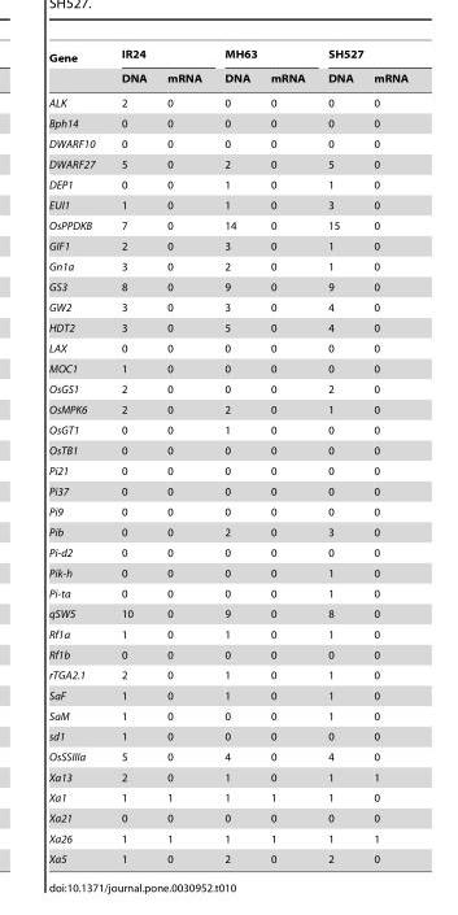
<table><thead><tr><td rowspan="2">Gene</td><td colspan="2">IR24</td><td colspan="2">MH63</td><td colspan="2">SH527</td></tr><tr><td>DNA</td><td>mRNA</td><td>DNA</td><td>mRNA</td><td>DNA</td><td>mRNA</td></tr></thead><tbody><tr><td>ALK</td><td>2</td><td>0</td><td>0</td><td>0</td><td>0</td><td>0</td></tr><tr><td>Bph14</td><td>0</td><td>0</td><td>0</td><td>0</td><td>0</td><td>0</td></tr><tr><td>DWARF10</td><td>0</td><td>0</td><td>0</td><td>0</td><td>0</td><td>0</td></tr><tr><td>DWARF27</td><td>5</td><td>0</td><td>2</td><td>0</td><td>5</td><td>0</td></tr><tr><td>DEP1</td><td>0</td><td>0</td><td>1</td><td>0</td><td>1</td><td>0</td></tr><tr><td>EUI1</td><td>1</td><td>0</td><td>1</td><td>0</td><td>3</td><td>0</td></tr><tr><td>OsPPDKB</td><td>7</td><td>0</td><td>14</td><td>0</td><td>15</td><td>0</td></tr><tr><td>GIF1</td><td>2</td><td>0</td><td>3</td><td>0</td><td>1</td><td>0</td></tr><tr><td>Gn1a</td><td>3</td><td>0</td><td>2</td><td>0</td><td>1</td><td>0</td></tr><tr><td>GS3</td><td>8</td><td>0</td><td>9</td><td>0</td><td>9</td><td>0</td></tr><tr><td>GW2</td><td>3</td><td>0</td><td>3</td><td>0</td><td>4</td><td>0</td></tr><tr><td>HDT2</td><td>3</td><td>0</td><td>5</td><td>0</td><td>4</td><td>0</td></tr><tr><td>LAX</td><td>0</td><td>0</td><td>0</td><td>0</td><td>0</td><td>0</td></tr><tr><td>MOC1</td><td>1</td><td>0</td><td>0</td><td>0</td><td>0</td><td>0</td></tr><tr><td>OsGS1</td><td>2</td><td>0</td><td>0</td><td>0</td><td>2</td><td>0</td></tr><tr><td>OsMPK6</td><td>2</td><td>0</td><td>2</td><td>0</td><td>1</td><td>0</td></tr><tr><td>OsGT1</td><td>0</td><td>0</td><td>1</td><td>0</td><td>0</td><td>0</td></tr><tr><td>OsTB1</td><td>0</td><td>0</td><td>0</td><td>0</td><td>0</td><td>0</td></tr><tr><td>Pi21</td><td>0</td><td>0</td><td>0</td><td>0</td><td>0</td><td>0</td></tr><tr><td>Pi37</td><td>0</td><td>0</td><td>0</td><td>0</td><td>0</td><td>0</td></tr><tr><td>Pi9</td><td>0</td><td>0</td><td>0</td><td>0</td><td>0</td><td>0</td></tr><tr><td>Pib</td><td>0</td><td>0</td><td>2</td><td>0</td><td>3</td><td>0</td></tr><tr><td>Pi-d2</td><td>0</td><td>0</td><td>0</td><td>0</td><td>0</td><td>0</td></tr><tr><td>Pik-h</td><td>0</td><td>0</td><td>0</td><td>0</td><td>1</td><td>0</td></tr><tr><td>Pi-ta</td><td>0</td><td>0</td><td>0</td><td>0</td><td>1</td><td>0</td></tr><tr><td>qSW5</td><td>10</td><td>0</td><td>9</td><td>0</td><td>8</td><td>0</td></tr><tr><td>Rf1a</td><td>1</td><td>0</td><td>1</td><td>0</td><td>1</td><td>0</td></tr><tr><td>Rf1b</td><td>0</td><td>0</td><td>0</td><td>0</td><td>0</td><td>0</td></tr><tr><td>rTGA2.1</td><td>2</td><td>0</td><td>1</td><td>0</td><td>1</td><td>0</td></tr><tr><td>SaF</td><td>1</td><td>0</td><td>1</td><td>0</td><td>1</td><td>0</td></tr><tr><td>SaM</td><td>1</td><td>0</td><td>0</td><td>0</td><td>1</td><td>0</td></tr><tr><td>sd1</td><td>1</td><td>0</td><td>0</td><td>0</td><td>0</td><td>0</td></tr><tr><td>OsSSIIIa</td><td>5</td><td>0</td><td>4</td><td>0</td><td>4</td><td>0</td></tr><tr><td>Xa13</td><td>2</td><td>0</td><td>1</td><td>0</td><td>1</td><td>1</td></tr><tr><td>Xa1</td><td>1</td><td>1</td><td>1</td><td>1</td><td>1</td><td>0</td></tr><tr><td>Xa21</td><td>0</td><td>0</td><td>0</td><td>0</td><td>0</td><td>0</td></tr><tr><td>Xa26</td><td>1</td><td>1</td><td>1</td><td>1</td><td>1</td><td>1</td></tr><tr><td>Xa5</td><td>1</td><td>0</td><td>2</td><td>0</td><td>2</td><td>0</td></tr></tbody></table>